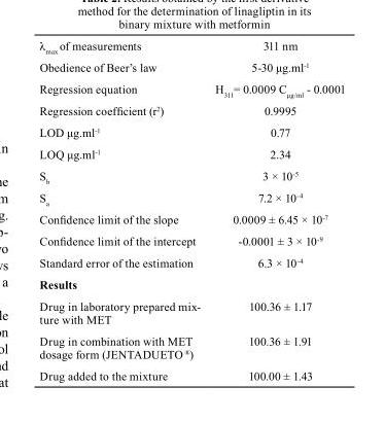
<table><tbody><tr><td>λ<sub>max</sub> of measurements</td><td>311 nm</td></tr><tr><td>Obedience of Beer’s law</td><td>5-30 μg.ml<sup>-1</sup></td></tr><tr><td>Regression equation</td><td>H<sub>311</sub>= 0.0009 C<sub>μg/ml</sub> - 0.0001</td></tr><tr><td>Regression coefficient (r<sup>2</sup>)</td><td>0.9995</td></tr><tr><td>LOD μg.ml<sup>-1</sup></td><td>0.77</td></tr><tr><td>LOQ μg.ml<sup>-1</sup></td><td>2.34</td></tr><tr><td>S<sub>b</sub></td><td>3 × 10<sup>-5</sup></td></tr><tr><td>S<sub>a</sub></td><td>7.2 × 10<sub>-4</sub></td></tr><tr><td>Confidence limit of the slope</td><td>0.0009 ± 6.45 × 10<sup>-7</sup></td></tr><tr><td>Confidence limit of the intercept</td><td>-0.0001 ± 3 × 10<sup>-9</sup></td></tr><tr><td>Standard error of the estimation</td><td>6.3 × 10<sup>-4</sup></td></tr><tr><td colspan="2">results</td></tr><tr><td>Drug in laboratory prepared mix- ture with MET</td><td>100.36 ± 1.17</td></tr><tr><td>Drug in combination with MET dosage form (JENTADUETO <sup>®</sup>)</td><td>100.36 ± 1.91</td></tr><tr><td>Drug added to the mixture</td><td>100.00 ± 1.43</td></tr></tbody></table>